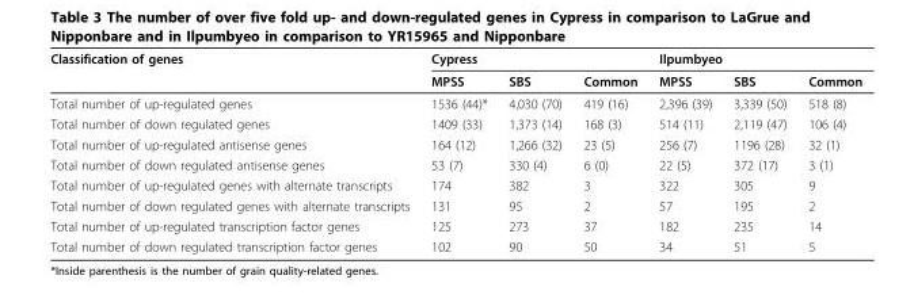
<table><thead><tr><td rowspan="2">Classification of genes</td><td colspan="3">Cypress</td><td colspan="3">Ilpumbyeo</td></tr><tr><td>MPSS</td><td>SBS</td><td>Common</td><td>MPSS</td><td>SBS</td><td>Common</td></tr></thead><tbody><tr><td>Total number of up-regulated genes</td><td>1536 (44)*</td><td>4,030 (70)</td><td>419 (16)</td><td>2,396 (39)</td><td>3,339 (50)</td><td>518 (8)</td></tr><tr><td>Total number of down regulated genes</td><td>1409 (33)</td><td>1,373 (14)</td><td>168 (3)</td><td>514 (11)</td><td>2,119 (47)</td><td>106 (4)</td></tr><tr><td>Total number of up-regulated antisense genes</td><td>164 (12)</td><td>1,266 (32)</td><td>23 (5)</td><td>256 (7)</td><td>1196 (28)</td><td>32 (1)</td></tr><tr><td>Total number of down regulated antisense genes</td><td>53 (7)</td><td>330 (4)</td><td>6 (0)</td><td>22 (5)</td><td>372 (17)</td><td>3 (1)</td></tr><tr><td>Total number of up-regulated genes with alternate transcripts</td><td>174</td><td>382</td><td>3</td><td>322</td><td>305</td><td>9</td></tr><tr><td>Total number of down regulated genes with alternate transcripts</td><td>131</td><td>95</td><td>2</td><td>57</td><td>195</td><td>2</td></tr><tr><td>Total number of up-regulated transcription factor genes</td><td>125</td><td>273</td><td>37</td><td>182</td><td>235</td><td>14</td></tr><tr><td>Total number of down regulated transcription factor genes</td><td>102</td><td>90</td><td>50</td><td>34</td><td>51</td><td>5</td></tr></tbody></table>